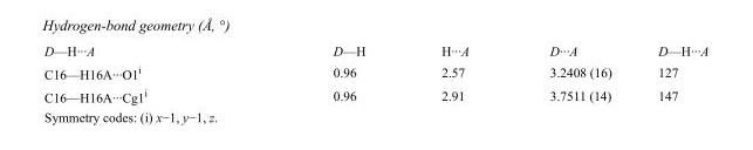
<table><tbody><tr><td>D—H···A</td><td>D—H</td><td>H···A</td><td>D···A</td><td>D—H···A</td></tr><tr><td>C16—H16A···O1<sup>i</sup></td><td>0.96</td><td>2.57</td><td>3.2408 (16)</td><td>127</td></tr><tr><td>C16—H16A···Cg1<sup>i</sup></td><td>0.96</td><td>2.91</td><td>3.7511 (14)</td><td>147</td></tr></tbody></table>